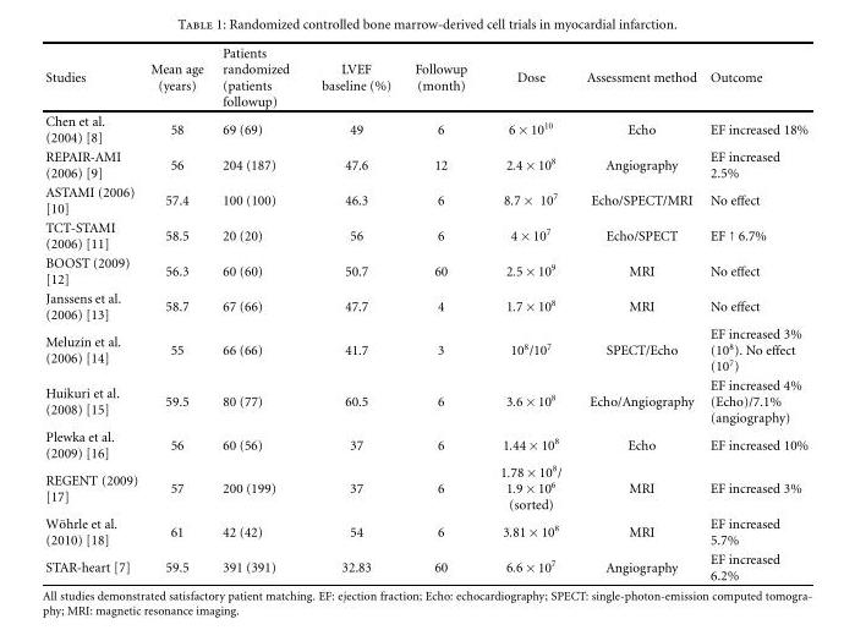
<table><thead><tr><td>Studies</td><td>Mean age (years)</td><td>Patients randomized (patients followup)</td><td>LVEF baseline (%)</td><td>Followup (month)</td><td>Dose</td><td>Assessment method</td><td>Outcome</td></tr></thead><tbody><tr><td>Chen et al. (2004) [8]</td><td>58</td><td>69 (69)</td><td>49</td><td>6</td><td>6 × 10<sup>10</sup></td><td>Echo</td><td>EF increased 18%</td></tr><tr><td>REPAIR-AMI (2006) [9]</td><td>56</td><td>204 (187)</td><td>47.6</td><td>12</td><td>2.4 × 10<sup>8</sup></td><td>Angiography</td><td>EF increased 2.5%</td></tr><tr><td>ASTAMI (2006) [10]</td><td>57.4</td><td>100 (100)</td><td>46.3</td><td>6</td><td>8.7 × 10<sup>7</sup></td><td>Echo/SPECT/MRI</td><td>No effect</td></tr><tr><td>TCT-STAMI (2006) [11]</td><td>58.5</td><td>20 (20)</td><td>56</td><td>6</td><td>4 × 10<sup>7</sup></td><td>Echo/SPECT</td><td>EF ↑ 6.7%</td></tr><tr><td>BOOST (2009) [12]</td><td>56.3</td><td>60 (60)</td><td>50.7</td><td>60</td><td>2.5 × 10<sup>9</sup></td><td>MRI</td><td>No effect</td></tr><tr><td>Janssens et al. (2006) [13]</td><td>58.7</td><td>67 (66)</td><td>47.7</td><td>4</td><td>1.7 × 10<sup>8</sup></td><td>MRI</td><td>No effect</td></tr><tr><td>Meluz´ın et al. (2006) [14]</td><td>55</td><td>66 (66)</td><td>41.7</td><td>3</td><td>10<sup>8</sup>/10<sup>7</sup></td><td>SPECT/Echo</td><td>EF increased 3% (10<sup>8</sup>). No effect (10<sup>7</sup>)</td></tr><tr><td>Huikuri et al. (2008) [15]</td><td>59.5</td><td>80 (77)</td><td>60.5</td><td>6</td><td>3.6 × 10<sup>8</sup></td><td>Echo/Angiography</td><td>EF increased 4% (Echo)/7.1% (angiography)</td></tr><tr><td>Plewka et al. (2009) [16]</td><td>56</td><td>60 (56)</td><td>37</td><td>6</td><td>1.44 × 10<sup>8</sup></td><td>Echo</td><td>EF increased 10%</td></tr><tr><td>REGENT (2009) [17]</td><td>57</td><td>200 (199)</td><td>37</td><td>6</td><td>1.78 × 10<sup>8</sup>/ 1.9 × 10<sup>6</sup> (sorted)</td><td>MRI</td><td>EF increased 3%</td></tr><tr><td>W¨ohrle et al. (2010) [18]</td><td>61</td><td>42 (42)</td><td>54</td><td>6</td><td>3.81 × 10<sup>8</sup></td><td>MRI</td><td>EF increased 5.7%</td></tr><tr><td>STAR-heart [7]</td><td>59.5</td><td>391 (391)</td><td>32.83</td><td>60</td><td>6.6 × 10<sup>7</sup></td><td>Angiography</td><td>EF increased 6.2%</td></tr></tbody></table>